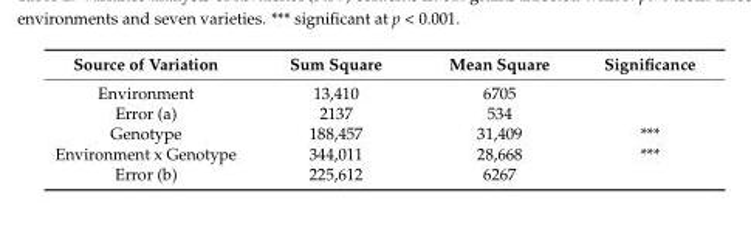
<table><thead><tr><td>Source of Variation</td><td>Sum Square</td><td>Mean Square</td><td>Significance</td></tr></thead><tbody><tr><td>Environment</td><td>13,410</td><td>6705</td><td></td></tr><tr><td>Error (a)</td><td>2137</td><td>534</td><td></td></tr><tr><td>Genotype</td><td>188,457</td><td>31,409</td><td>***</td></tr><tr><td>Environment x Genotype</td><td>344,011</td><td>28,668</td><td>***</td></tr><tr><td>Error (b)</td><td>225,612</td><td>6267</td><td></td></tr></tbody></table>